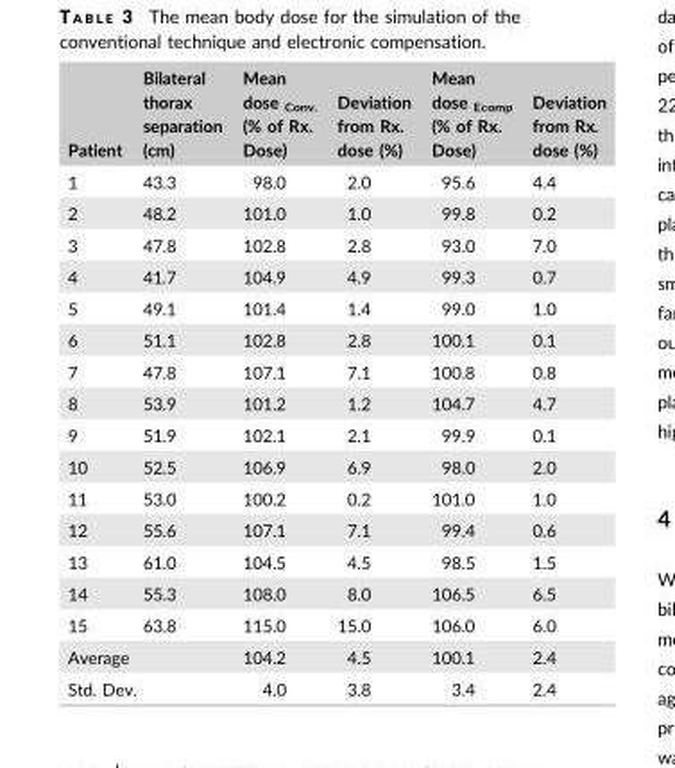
<table><thead><tr><td>Patient</td><td>Bilateral thorax separation (cm)</td><td>Mean dose <sub>Conv.</sub> (% of Rx. Dose)</td><td>Deviation from Rx. dose (%)</td><td>Mean dose <sub>Ecomp</sub> (% of Rx. Dose)</td><td>Deviation from Rx. dose (%)</td></tr></thead><tbody><tr><td>1</td><td>43.3</td><td>98.0</td><td>2.0</td><td>95.6</td><td>4.4</td></tr><tr><td>2</td><td>48.2</td><td>101.0</td><td>1.0</td><td>99.8</td><td>0.2</td></tr><tr><td>3</td><td>47.8</td><td>102.8</td><td>2.8</td><td>93.0</td><td>7.0</td></tr><tr><td>4</td><td>41.7</td><td>104.9</td><td>4.9</td><td>99.3</td><td>0.7</td></tr><tr><td>5</td><td>49.1</td><td>101.4</td><td>1.4</td><td>99.0</td><td>1.0</td></tr><tr><td>6</td><td>51.1</td><td>102.8</td><td>2.8</td><td>100.1</td><td>0.1</td></tr><tr><td>7</td><td>47.8</td><td>107.1</td><td>7.1</td><td>100.8</td><td>0.8</td></tr><tr><td>8</td><td>53.9</td><td>101.2</td><td>1.2</td><td>104.7</td><td>4.7</td></tr><tr><td>9</td><td>51.9</td><td>102.1</td><td>2.1</td><td>99.9</td><td>0.1</td></tr><tr><td>10</td><td>52.5</td><td>106.9</td><td>6.9</td><td>98.0</td><td>2.0</td></tr><tr><td>11</td><td>53.0</td><td>100.2</td><td>0.2</td><td>101.0</td><td>1.0</td></tr><tr><td>12</td><td>55.6</td><td>107.1</td><td>7.1</td><td>99.4</td><td>0.6</td></tr><tr><td>13</td><td>61.0</td><td>104.5</td><td>4.5</td><td>98.5</td><td>1.5</td></tr><tr><td>14</td><td>55.3</td><td>108.0</td><td>8.0</td><td>106.5</td><td>6.5</td></tr><tr><td>15</td><td>63.8</td><td>115.0</td><td>15.0</td><td>106.0</td><td>6.0</td></tr><tr><td colspan="2">Average</td><td>104.2</td><td>4.5</td><td>100.1</td><td>2.4</td></tr><tr><td colspan="2">Std. Dev.</td><td>4.0</td><td>3.8</td><td>3.4</td><td>2.4</td></tr></tbody></table>